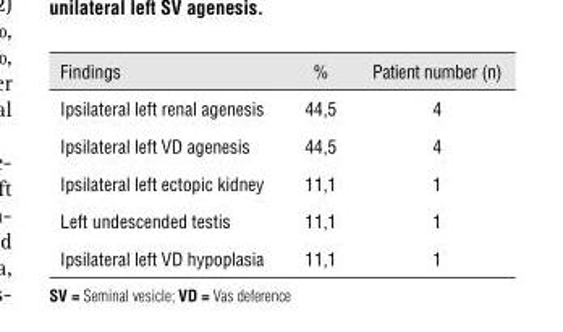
<table><thead><tr><td>Findings</td><td>%</td><td>Patient number (n)</td></tr></thead><tbody><tr><td>Ipsilateral left renal agenesis</td><td>44,5</td><td>4</td></tr><tr><td>Ipsilateral left VD agenesis</td><td>44,5</td><td>4</td></tr><tr><td>Ipsilateral left ectopic kidney</td><td>11,1</td><td>1</td></tr><tr><td>Left undescended testis</td><td>11,1</td><td>1</td></tr><tr><td>Ipsilateral left VD hypoplasia</td><td>11,1</td><td>1</td></tr></tbody></table>